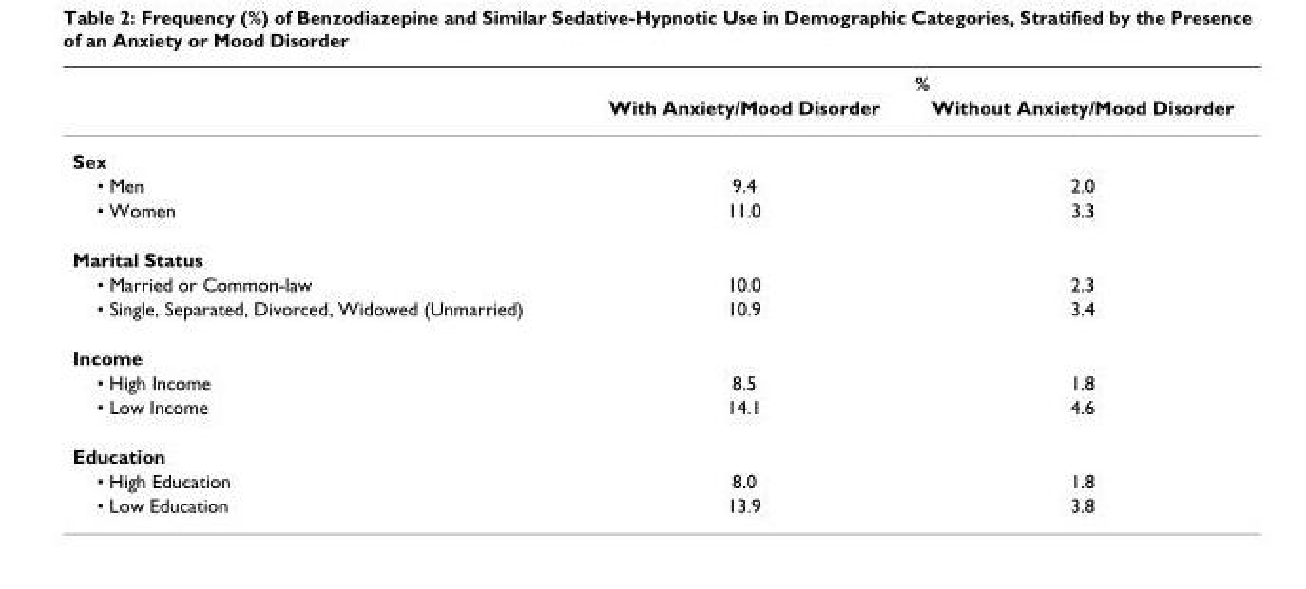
<table><thead><tr><td rowspan="2"></td><td colspan="2">%</td></tr><tr><td>With Anxiety/Mood Disorder</td><td>Without Anxiety/Mood Disorder</td></tr></thead><tbody><tr><td colspan="3">Sex</td></tr><tr><td>• Men</td><td>9.4</td><td>2.0</td></tr><tr><td>• Women</td><td>11.0</td><td>3.3</td></tr><tr><td colspan="3">Marital Status</td></tr><tr><td>• Married or Common-law</td><td>10.0</td><td>2.3</td></tr><tr><td>• Single, Separated, Divorced, Widowed (Unmarried)</td><td>10.9</td><td>3.4</td></tr><tr><td colspan="3">Income</td></tr><tr><td>• High Income</td><td>8.5</td><td>1.8</td></tr><tr><td>• Low Income</td><td>14.1</td><td>4.6</td></tr><tr><td colspan="3">Education</td></tr><tr><td>• High Education</td><td>8.0</td><td>1.8</td></tr><tr><td>• Low Education</td><td>13.9</td><td>3.8</td></tr></tbody></table>